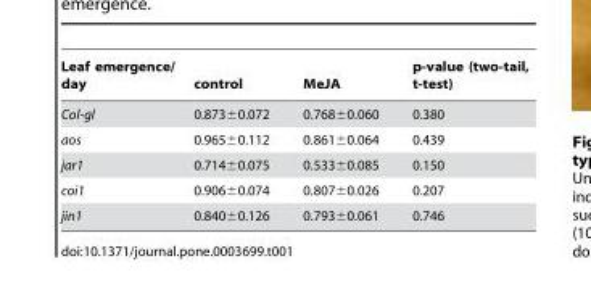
<table><thead><tr><td>Leaf emergence/ day</td><td>control</td><td>MeJA</td><td>p-value (two-tail, t-test)</td></tr></thead><tbody><tr><td>Col-gl</td><td>0.873±0.072</td><td>0.768±0.060</td><td>0.380</td></tr><tr><td>aos</td><td>0.965±0.112</td><td>0.861±0.064</td><td>0.439</td></tr><tr><td>jar1</td><td>0.714±0.075</td><td>0.533±0.085</td><td>0.150</td></tr><tr><td>coi1</td><td>0.906±0.074</td><td>0.807±0.026</td><td>0.207</td></tr><tr><td>jin1</td><td>0.840±0.126</td><td>0.793±0.061</td><td>0.746</td></tr></tbody></table>